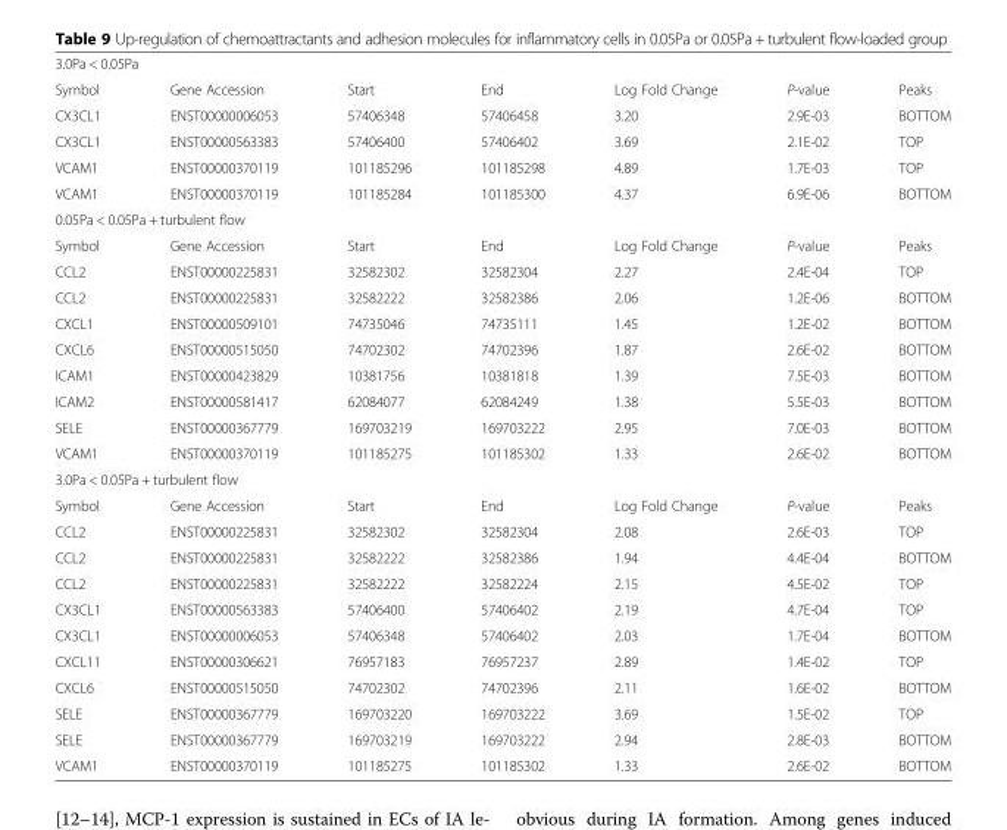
<table><tbody><tr><td colspan="7">3.0Pa &lt; 0.05Pa</td></tr><tr><td>Symbol</td><td>Gene Accession</td><td>Start</td><td>End</td><td>Log Fold Change</td><td>P-value</td><td>Peaks</td></tr><tr><td>CX3CL1</td><td>ENST00000006053</td><td>57406348</td><td>57406458</td><td>3.20</td><td>2.9E-03</td><td>BOTTOM</td></tr><tr><td>CX3CL1</td><td>ENST00000563383</td><td>57406400</td><td>57406402</td><td>3.69</td><td>2.1E-02</td><td>TOP</td></tr><tr><td>VCAM1</td><td>ENST00000370119</td><td>101185296</td><td>101185298</td><td>4.89</td><td>1.7E-03</td><td>TOP</td></tr><tr><td>VCAM1</td><td>ENST00000370119</td><td>101185284</td><td>101185300</td><td>4.37</td><td>6.9E-06</td><td>BOTTOM</td></tr><tr><td colspan="7">0.05Pa &lt; 0.05Pa + turbulent flow</td></tr><tr><td>Symbol</td><td>Gene Accession</td><td>Start</td><td>End</td><td>Log Fold Change</td><td>P-value</td><td>Peaks</td></tr><tr><td>CCL2</td><td>ENST00000225831</td><td>32582302</td><td>32582304</td><td>2.27</td><td>2.4E-04</td><td>TOP</td></tr><tr><td>CCL2</td><td>ENST00000225831</td><td>32582222</td><td>32582386</td><td>2.06</td><td>1.2E-06</td><td>BOTTOM</td></tr><tr><td>CXCL1</td><td>ENST00000509101</td><td>74735046</td><td>74735111</td><td>1.45</td><td>1.2E-02</td><td>BOTTOM</td></tr><tr><td>CXCL6</td><td>ENST00000515050</td><td>74702302</td><td>74702396</td><td>1.87</td><td>2.6E-02</td><td>BOTTOM</td></tr><tr><td>ICAM1</td><td>ENST00000423829</td><td>10381756</td><td>10381818</td><td>1.39</td><td>7.5E-03</td><td>BOTTOM</td></tr><tr><td>ICAM2</td><td>ENST00000581417</td><td>62084077</td><td>62084249</td><td>1.38</td><td>5.5E-03</td><td>BOTTOM</td></tr><tr><td>SELE</td><td>ENST00000367779</td><td>169703219</td><td>169703222</td><td>2.95</td><td>7.0E-03</td><td>BOTTOM</td></tr><tr><td>VCAM1</td><td>ENST00000370119</td><td>101185275</td><td>101185302</td><td>1.33</td><td>2.6E-02</td><td>BOTTOM</td></tr><tr><td colspan="7">3.0Pa &lt; 0.05Pa + turbulent flow</td></tr><tr><td>Symbol</td><td>Gene Accession</td><td>Start</td><td>End</td><td>Log Fold Change</td><td>P-value</td><td>Peaks</td></tr><tr><td>CCL2</td><td>ENST00000225831</td><td>32582302</td><td>32582304</td><td>2.08</td><td>2.6E-03</td><td>TOP</td></tr><tr><td>CCL2</td><td>ENST00000225831</td><td>32582222</td><td>32582386</td><td>1.94</td><td>4.4E-04</td><td>BOTTOM</td></tr><tr><td>CCL2</td><td>ENST00000225831</td><td>32582222</td><td>32582224</td><td>2.15</td><td>4.5E-02</td><td>TOP</td></tr><tr><td>CX3CL1</td><td>ENST00000563383</td><td>57406400</td><td>57406402</td><td>2.19</td><td>4.7E-04</td><td>TOP</td></tr><tr><td>CX3CL1</td><td>ENST00000006053</td><td>57406348</td><td>57406402</td><td>2.03</td><td>1.7E-04</td><td>BOTTOM</td></tr><tr><td>CXCL11</td><td>ENST00000306621</td><td>76957183</td><td>76957237</td><td>2.89</td><td>1.4E-02</td><td>TOP</td></tr><tr><td>CXCL6</td><td>ENST00000515050</td><td>74702302</td><td>74702396</td><td>2.11</td><td>1.6E-02</td><td>BOTTOM</td></tr><tr><td>SELE</td><td>ENST00000367779</td><td>169703220</td><td>169703222</td><td>3.69</td><td>1.5E-02</td><td>TOP</td></tr><tr><td>SELE</td><td>ENST00000367779</td><td>169703219</td><td>169703222</td><td>2.94</td><td>2.8E-03</td><td>BOTTOM</td></tr><tr><td>VCAM1</td><td>ENST00000370119</td><td>101185275</td><td>101185302</td><td>1.33</td><td>2.6E-02</td><td>BOTTOM</td></tr></tbody></table>